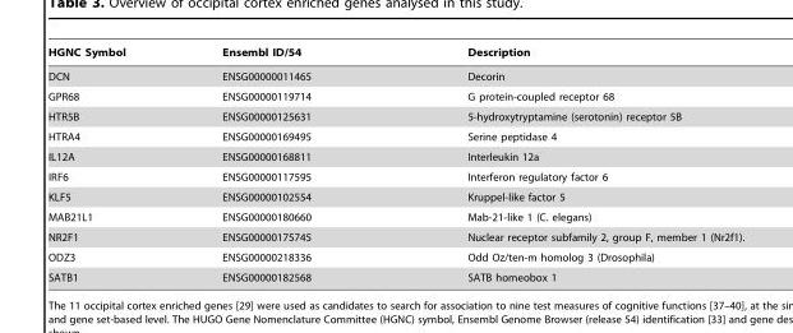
<table><thead><tr><td>HGNC Symbol</td><td>Ensembl ID/54</td><td>Description</td></tr></thead><tbody><tr><td>DCN</td><td>ENSG00000011465</td><td>Decorin</td></tr><tr><td>GPR68</td><td>ENSG00000119714</td><td>G protein-coupled receptor 68</td></tr><tr><td>HTR5B</td><td>ENSG00000125631</td><td>5-hydroxytryptamine (serotonin) receptor 5B</td></tr><tr><td>HTRA4</td><td>ENSG00000169495</td><td>Serine peptidase 4</td></tr><tr><td>IL12A</td><td>ENSG00000168811</td><td>Interleukin 12a</td></tr><tr><td>IRF6</td><td>ENSG00000117595</td><td>Interferon regulatory factor 6</td></tr><tr><td>KLF5</td><td>ENSG00000102554</td><td>Kruppel-like factor 5</td></tr><tr><td>MAB21L1</td><td>ENSG00000180660</td><td>Mab-21-like 1 (C. elegans)</td></tr><tr><td>NR2F1</td><td>ENSG00000175745</td><td>Nuclear receptor subfamily 2, group F, member 1 (Nr2f1).</td></tr><tr><td>ODZ3</td><td>ENSG00000218336</td><td>Odd Oz/ten-m homolog 3 (Drosophila)</td></tr><tr><td>SATB1</td><td>ENSG00000182568</td><td>SATB homeobox 1</td></tr></tbody></table>